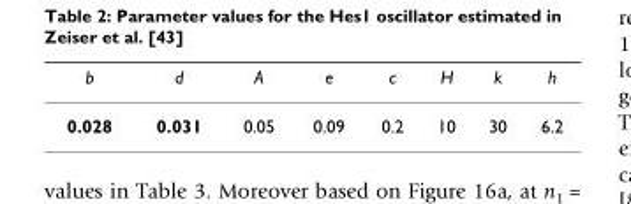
<table><thead><tr><td>b</td><td>d</td><td>A</td><td>e</td><td>c</td><td>H</td><td>k</td><td>h</td></tr></thead><tbody><tr><td>0.028</td><td>0.031</td><td>0.05</td><td>0.09</td><td>0.2</td><td>10</td><td>30</td><td>6.2</td></tr></tbody></table>